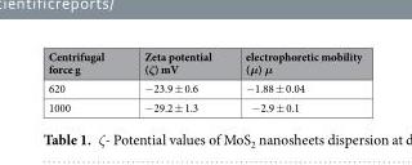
<table><thead><tr><td>Centrifugal force g</td><td>Zeta potential (ζ) mV</td><td>electrophoretic mobility (μ) μ</td></tr></thead><tbody><tr><td>620</td><td>−23.9 ± 0.6</td><td>−1.88 ± 0.04</td></tr><tr><td>1000</td><td>−29.2 ± 1.3</td><td>−2.9 ± 0.1</td></tr></tbody></table>